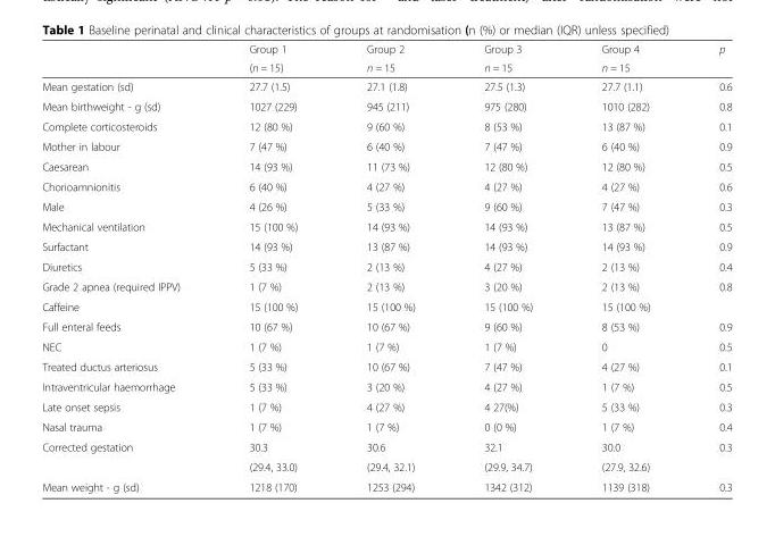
<table><thead><tr><td rowspan="2"></td><td rowspan="2">Group 1 (n = 15)</td><td rowspan="2">Group 2 n = 15</td><td rowspan="2">Group 3 n = 15</td><td rowspan="2">Group 4 n = 15</td><td rowspan="2">p</td></tr><tr></tr></thead><tbody><tr><td>Mean gestation (sd)</td><td>27.7 (1.5)</td><td>27.1 (1.8)</td><td>27.5 (1.3)</td><td>27.7 (1.1)</td><td>0.6</td></tr><tr><td>Mean birthweight - g (sd)</td><td>1027 (229)</td><td>945 (211)</td><td>975 (280)</td><td>1010 (282)</td><td>0.8</td></tr><tr><td>Complete corticosteroids</td><td>12 (80 %)</td><td>9 (60 %)</td><td>8 (53 %)</td><td>13 (87 %)</td><td>0.1</td></tr><tr><td>Mother in labour</td><td>7 (47 %)</td><td>6 (40 %)</td><td>7 (47 %)</td><td>6 (40 %)</td><td>0.9</td></tr><tr><td>Caesarean</td><td>14 (93 %)</td><td>11 (73 %)</td><td>12 (80 %)</td><td>12 (80 %)</td><td>0.5</td></tr><tr><td>Chorioamnionitis</td><td>6 (40 %)</td><td>4 (27 %)</td><td>4 (27 %)</td><td>4 (27 %)</td><td>0.6</td></tr><tr><td>Male</td><td>4 (26 %)</td><td>5 (33 %)</td><td>9 (60 %)</td><td>7 (47 %)</td><td>0.3</td></tr><tr><td>Mechanical ventilation</td><td>15 (100 %)</td><td>14 (93 %)</td><td>14 (93 %)</td><td>13 (87 %)</td><td>0.5</td></tr><tr><td>Surfactant</td><td>14 (93 %)</td><td>13 (87 %)</td><td>14 (93 %)</td><td>14 (93 %)</td><td>0.9</td></tr><tr><td>Diuretics</td><td>5 (33 %)</td><td>2 (13 %)</td><td>4 (27 %)</td><td>2 (13 %)</td><td>0.4</td></tr><tr><td>Grade 2 apnea (required IPPV)</td><td>1 (7 %)</td><td>2 (13 %)</td><td>3 (20 %)</td><td>2 (13 %)</td><td>0.8</td></tr><tr><td>Caffeine</td><td>15 (100 %)</td><td>15 (100 %)</td><td>15 (100 %)</td><td>15 (100 %)</td><td></td></tr><tr><td>Full enteral feeds</td><td>10 (67 %)</td><td>10 (67 %)</td><td>9 (60 %)</td><td>8 (53 %)</td><td>0.9</td></tr><tr><td>NEC</td><td>1 (7 %)</td><td>1 (7 %)</td><td>1 (7 %)</td><td>0</td><td>0.5</td></tr><tr><td>Treated ductus arteriosus</td><td>5 (33 %)</td><td>10 (67 %)</td><td>7 (47 %)</td><td>4 (27 %)</td><td>0.1</td></tr><tr><td>Intraventricular haemorrhage</td><td>5 (33 %)</td><td>3 (20 %)</td><td>4 (27 %)</td><td>1 (7 %)</td><td>0.5</td></tr><tr><td>Late onset sepsis</td><td>1 (7 %)</td><td>4 (27 %)</td><td>4 27(%)</td><td>5 (33 %)</td><td>0.3</td></tr><tr><td>Nasal trauma</td><td>1 (7 %)</td><td>1 (7 %)</td><td>0 (0 %)</td><td>1 (7 %)</td><td>0.4</td></tr><tr><td rowspan="2">Corrected gestation</td><td>30.3</td><td>30.6</td><td>32.1</td><td>30.0</td><td rowspan="2">0.3</td></tr><tr><td>(29.4, 33.0)</td><td>(29.4, 32.1)</td><td>(29.9, 34.7)</td><td>(27.9, 32.6)</td></tr><tr><td>Mean weight - g (sd)</td><td>1218 (170)</td><td>1253 (294)</td><td>1342 (312)</td><td>1139 (318)</td><td>0.3</td></tr></tbody></table>